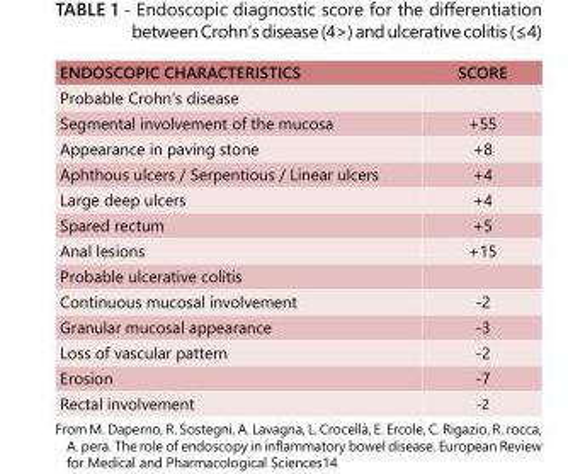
<table><tbody><tr><td>ENDOSCOPIC CHARACTERISTICS</td><td>SCORE</td></tr><tr><td colspan="2">Probable Crohn’s disease</td></tr><tr><td>Segmental involvement of the mucosa</td><td>+55</td></tr><tr><td>Appearance in paving stone</td><td>+8</td></tr><tr><td>Aphthous ulcers / Serpentious / Linear ulcers</td><td>+4</td></tr><tr><td>Large deep ulcers</td><td>+4</td></tr><tr><td>Spared rectum</td><td>+5</td></tr><tr><td>Anal lesions</td><td>+15</td></tr><tr><td colspan="2">Probable ulcerative colitis</td></tr><tr><td>Continuous mucosal involvement</td><td>-2</td></tr><tr><td>Granular mucosal appearance</td><td>-3</td></tr><tr><td>Loss of vascular pattern</td><td>-2</td></tr><tr><td>Erosion</td><td>-7</td></tr><tr><td>Rectal involvement</td><td>-2</td></tr></tbody></table>